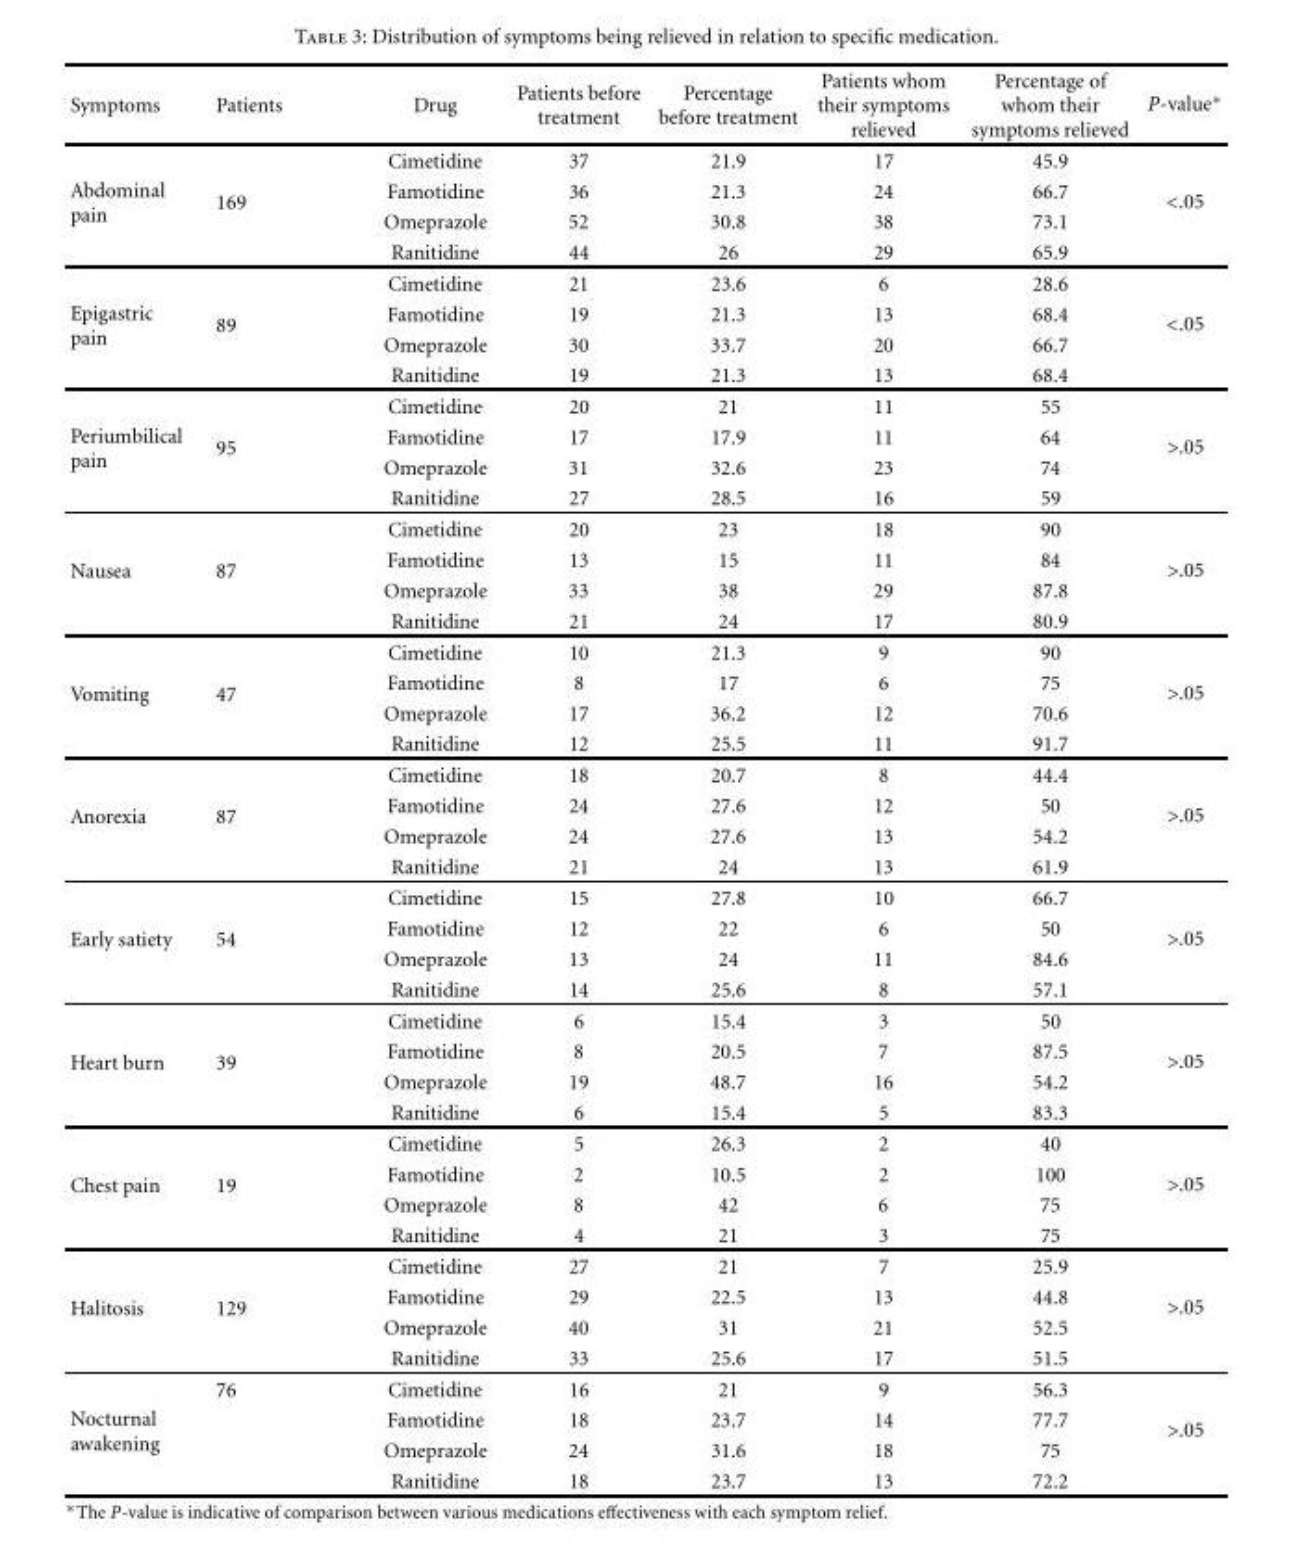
<table><thead><tr><td>Symptoms</td><td>Patients</td><td>Drug</td><td>Patients before treatment</td><td>Percentage before treatment</td><td>Patients whom their symptoms relieved</td><td>Percentage of whom their symptoms relieved</td><td>P-value∗</td></tr></thead><tbody><tr><td rowspan="4">Abdominal pain</td><td rowspan="4">169</td><td>Cimetidine</td><td>37</td><td>21.9</td><td>17</td><td>45.9</td><td rowspan="4">&lt;.05</td></tr><tr><td>Famotidine</td><td>36</td><td>21.3</td><td>24</td><td>66.7</td></tr><tr><td>Omeprazole</td><td>52</td><td>30.8</td><td>38</td><td>73.1</td></tr><tr><td>Ranitidine</td><td>44</td><td>26</td><td>29</td><td>65.9</td></tr><tr><td rowspan="4">Epigastric pain</td><td rowspan="4">89</td><td>Cimetidine</td><td>21</td><td>23.6</td><td>6</td><td>28.6</td><td rowspan="4">&lt;.05</td></tr><tr><td>Famotidine</td><td>19</td><td>21.3</td><td>13</td><td>68.4</td></tr><tr><td>Omeprazole</td><td>30</td><td>33.7</td><td>20</td><td>66.7</td></tr><tr><td>Ranitidine</td><td>19</td><td>21.3</td><td>13</td><td>68.4</td></tr><tr><td rowspan="4">Periumbilical pain</td><td rowspan="4">95</td><td>Cimetidine</td><td>20</td><td>21</td><td>11</td><td>55</td><td rowspan="4">&gt;.05</td></tr><tr><td>Famotidine</td><td>17</td><td>17.9</td><td>11</td><td>64</td></tr><tr><td>Omeprazole</td><td>31</td><td>32.6</td><td>23</td><td>74</td></tr><tr><td>Ranitidine</td><td>27</td><td>28.5</td><td>16</td><td>59</td></tr><tr><td rowspan="4">Nausea</td><td rowspan="4">87</td><td>Cimetidine</td><td>20</td><td>23</td><td>18</td><td>90</td><td rowspan="4">&gt;.05</td></tr><tr><td>Famotidine</td><td>13</td><td>15</td><td>11</td><td>84</td></tr><tr><td>Omeprazole</td><td>33</td><td>38</td><td>29</td><td>87.8</td></tr><tr><td>Ranitidine</td><td>21</td><td>24</td><td>17</td><td>80.9</td></tr><tr><td rowspan="4">Vomiting</td><td rowspan="4">47</td><td>Cimetidine</td><td>10</td><td>21.3</td><td>9</td><td>90</td><td rowspan="4">&gt;.05</td></tr><tr><td>Famotidine</td><td>8</td><td>17</td><td>6</td><td>75</td></tr><tr><td>Omeprazole</td><td>17</td><td>36.2</td><td>12</td><td>70.6</td></tr><tr><td>Ranitidine</td><td>12</td><td>25.5</td><td>11</td><td>91.7</td></tr><tr><td rowspan="4">Anorexia</td><td rowspan="4">87</td><td>Cimetidine</td><td>18</td><td>20.7</td><td>8</td><td>44.4</td><td rowspan="4">&gt;.05</td></tr><tr><td>Famotidine</td><td>24</td><td>27.6</td><td>12</td><td>50</td></tr><tr><td>Omeprazole</td><td>24</td><td>27.6</td><td>13</td><td>54.2</td></tr><tr><td>Ranitidine</td><td>21</td><td>24</td><td>13</td><td>61.9</td></tr><tr><td rowspan="4">Early satiety</td><td rowspan="4">54</td><td>Cimetidine</td><td>15</td><td>27.8</td><td>10</td><td>66.7</td><td rowspan="4">&gt;.05</td></tr><tr><td>Famotidine</td><td>12</td><td>22</td><td>6</td><td>50</td></tr><tr><td>Omeprazole</td><td>13</td><td>24</td><td>11</td><td>84.6</td></tr><tr><td>Ranitidine</td><td>14</td><td>25.6</td><td>8</td><td>57.1</td></tr><tr><td rowspan="4">Heart burn</td><td rowspan="4">39</td><td>Cimetidine</td><td>6</td><td>15.4</td><td>3</td><td>50</td><td rowspan="4">&gt;.05</td></tr><tr><td>Famotidine</td><td>8</td><td>20.5</td><td>7</td><td>87.5</td></tr><tr><td>Omeprazole</td><td>19</td><td>48.7</td><td>16</td><td>54.2</td></tr><tr><td>Ranitidine</td><td>6</td><td>15.4</td><td>5</td><td>83.3</td></tr><tr><td rowspan="4">Chest pain</td><td rowspan="4">19</td><td>Cimetidine</td><td>5</td><td>26.3</td><td>2</td><td>40</td><td rowspan="4">&gt;.05</td></tr><tr><td>Famotidine</td><td>2</td><td>10.5</td><td>2</td><td>100</td></tr><tr><td>Omeprazole</td><td>8</td><td>42</td><td>6</td><td>75</td></tr><tr><td>Ranitidine</td><td>4</td><td>21</td><td>3</td><td>75</td></tr><tr><td rowspan="4">Halitosis</td><td rowspan="4">129</td><td>Cimetidine</td><td>27</td><td>21</td><td>7</td><td>25.9</td><td rowspan="4">&gt;.05</td></tr><tr><td>Famotidine</td><td>29</td><td>22.5</td><td>13</td><td>44.8</td></tr><tr><td>Omeprazole</td><td>40</td><td>31</td><td>21</td><td>52.5</td></tr><tr><td>Ranitidine</td><td>33</td><td>25.6</td><td>17</td><td>51.5</td></tr><tr><td rowspan="4">Nocturnal awakening</td><td>76</td><td>Cimetidine</td><td>16</td><td>21</td><td>9</td><td>56.3</td><td rowspan="4">&gt;.05</td></tr><tr><td></td><td>Famotidine</td><td>18</td><td>23.7</td><td>14</td><td>77.7</td></tr><tr><td></td><td>Omeprazole</td><td>24</td><td>31.6</td><td>18</td><td>75</td></tr><tr><td></td><td>Ranitidine</td><td>18</td><td>23.7</td><td>13</td><td>72.2</td></tr></tbody></table>